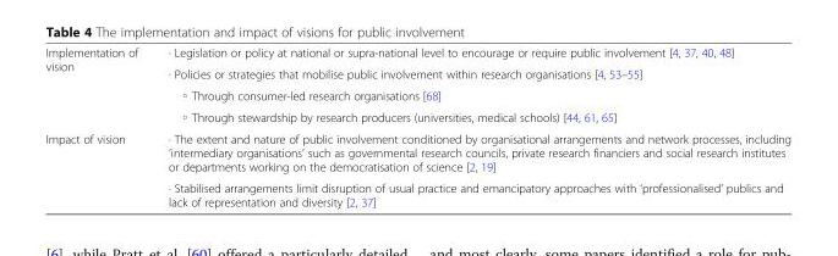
<table><tbody><tr><td rowspan="4">Implementation of vision</td><td>∙ Legislation or policy at national or supra-national level to encourage or require public involvement [4, 37, 40, 48]</td></tr><tr><td>∙ Policies or strategies that mobilise public involvement within research organisations [4, 53–55]</td></tr><tr><td>◦ Through consumer-led research organisations [68]</td></tr><tr><td>◦ Through stewardship by research producers (universities, medical schools) [44, 61, 65]</td></tr><tr><td rowspan="2">Impact of vision</td><td>∙ The extent and nature of public involvement conditioned by organisational arrangements and network processes, including ‘intermediary organisations’ such as governmental research councils, private research financiers and social research institutes or departments working on the democratisation of science [2, 19]</td></tr><tr><td>∙ Stabilised arrangements limit disruption of usual practice and emancipatory approaches with ‘professionalised’ publics and lack of representation and diversity [2, 37]</td></tr></tbody></table>